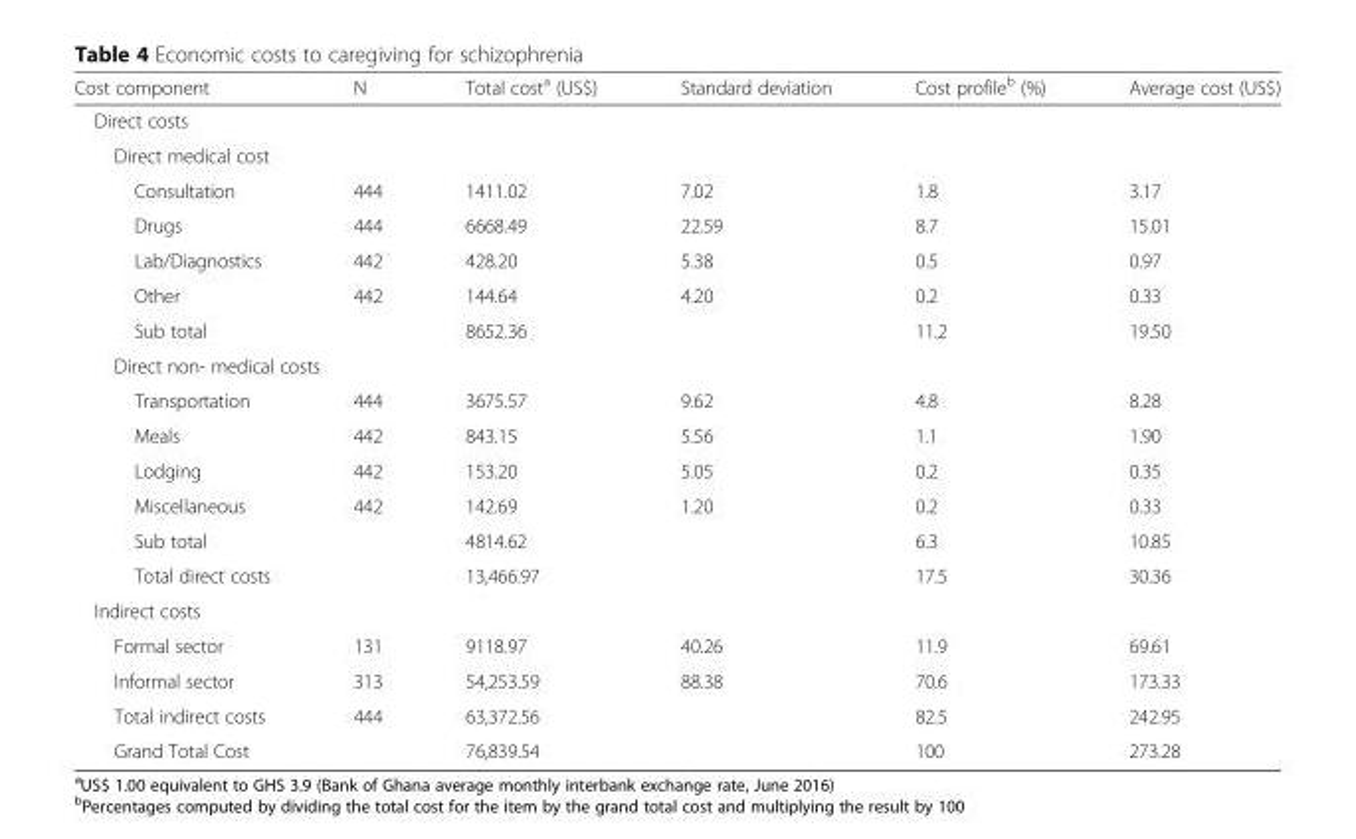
<table><thead><tr><td>Cost component</td><td>N</td><td>Total cost<sup>a</sup> (US$)</td><td>Standard deviation</td><td>Cost profile<sup>b</sup> (%)</td><td>Average cost (US$)</td></tr></thead><tbody><tr><td colspan="6">Direct costs</td></tr><tr><td colspan="6">Direct medical cost</td></tr><tr><td>Consultation</td><td>444</td><td>1411.02</td><td>7.02</td><td>1.8</td><td>3.17</td></tr><tr><td>Drugs</td><td>444</td><td>6668.49</td><td>22.59</td><td>8.7</td><td>15.01</td></tr><tr><td>Lab/Diagnostics</td><td>442</td><td>428.20</td><td>5.38</td><td>0.5</td><td>0.97</td></tr><tr><td>Other</td><td>442</td><td>144.64</td><td>4.20</td><td>0.2</td><td>0.33</td></tr><tr><td>Sub total</td><td></td><td>8652.36</td><td></td><td>11.2</td><td>19.50</td></tr><tr><td colspan="6">Direct non- medical costs</td></tr><tr><td>Transportation</td><td>444</td><td>3675.57</td><td>9.62</td><td>4.8</td><td>8.28</td></tr><tr><td>Meals</td><td>442</td><td>843.15</td><td>5.56</td><td>1.1</td><td>1.90</td></tr><tr><td>Lodging</td><td>442</td><td>153.20</td><td>5.05</td><td>0.2</td><td>0.35</td></tr><tr><td>Miscellaneous</td><td>442</td><td>142.69</td><td>1.20</td><td>0.2</td><td>0.33</td></tr><tr><td>Sub total</td><td></td><td>4814.62</td><td></td><td>6.3</td><td>10.85</td></tr><tr><td>Total direct costs</td><td></td><td>13,466.97</td><td></td><td>17.5</td><td>30.36</td></tr><tr><td colspan="6">Indirect costs</td></tr><tr><td>Formal sector</td><td>131</td><td>9118.97</td><td>40.26</td><td>11.9</td><td>69.61</td></tr><tr><td>Informal sector</td><td>313</td><td>54,253.59</td><td>88.38</td><td>70.6</td><td>173.33</td></tr><tr><td>Total indirect costs</td><td>444</td><td>63,372.56</td><td></td><td>82.5</td><td>242.95</td></tr><tr><td>Grand Total Cost</td><td></td><td>76,839.54</td><td></td><td>100</td><td>273.28</td></tr></tbody></table>